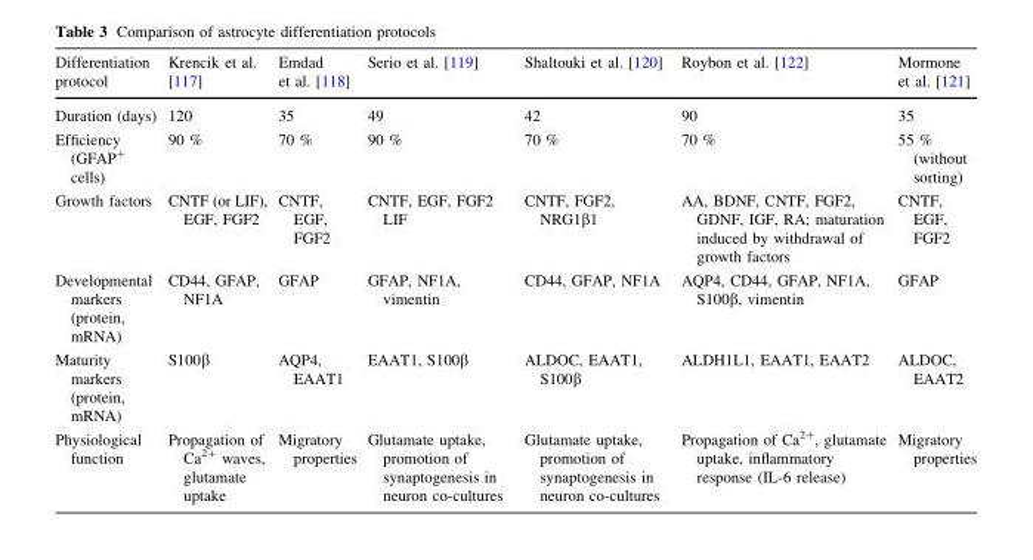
<table><thead><tr><td>Differentiation protocol</td><td>Krencik et al. [117]</td><td>Emdad et al. [118]</td><td>Serio et al. [119]</td><td>Shaltouki et al. [120]</td><td>Roybon et al. [122]</td><td>Mormone et al. [121]</td></tr></thead><tbody><tr><td>Duration (days)</td><td>120</td><td>35</td><td>49</td><td>42</td><td>90</td><td>35</td></tr><tr><td>Efficiency (GFAP<sup>+</sup> cells)</td><td>90 %</td><td>70 %</td><td>90 %</td><td>70 %</td><td>70 %</td><td>55 % (without sorting)</td></tr><tr><td>Growth factors</td><td>CNTF (or LIF), EGF, FGF2</td><td>CNTF, EGF, FGF2</td><td>CNTF, EGF, FGF2 LIF</td><td>CNTF, FGF2, NRG1β1</td><td>AA, BDNF, CNTF, FGF2, GDNF, IGF, RA; maturation induced by withdrawal of growth factors</td><td>CNTF, EGF, FGF2</td></tr><tr><td>Developmental markers (protein, mRNA)</td><td>CD44, GFAP, NF1A</td><td>GFAP</td><td>GFAP, NF1A, vimentin</td><td>CD44, GFAP, NF1A</td><td>AQP4, CD44, GFAP, NF1A, S100β, vimentin</td><td>GFAP</td></tr><tr><td>Maturity markers (protein, mRNA)</td><td>S100β</td><td>AQP4, EAAT1</td><td>EAAT1, S100β</td><td>ALDOC, EAAT1, S100β</td><td>ALDH1L1, EAAT1, EAAT2</td><td>ALDOC, EAAT2</td></tr><tr><td>Physiological function</td><td>Propagation of Ca<sup>2+</sup> waves, glutamate uptake</td><td>Migratory properties</td><td>Glutamate uptake, promotion of synaptogenesis in neuron co-cultures</td><td>Glutamate uptake, promotion of synaptogenesis in neuron co-cultures</td><td>Propagation of Ca<sup>2+</sup>, glutamate uptake, inflammatory response (IL-6 release)</td><td>Migratory properties</td></tr></tbody></table>